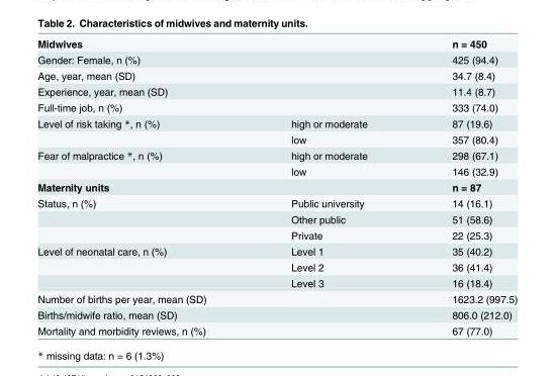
<table><tbody><tr><td>Midwives</td><td></td><td>n = 450</td></tr><tr><td>Gender: Female, n (%)</td><td></td><td>425 (94.4)</td></tr><tr><td>Age, year, mean (SD)</td><td></td><td>34.7 (8.4)</td></tr><tr><td>Experience, year, mean (SD)</td><td></td><td>11.4 (8.7)</td></tr><tr><td>Full-time job, n (%)</td><td></td><td>333 (74.0)</td></tr><tr><td rowspan="2">Level of risk taking *, n (%)</td><td>high or moderate</td><td>87 (19.6)</td></tr><tr><td>low</td><td>357 (80.4)</td></tr><tr><td rowspan="2">Fear of malpractice *, n (%)</td><td>high or moderate</td><td>298 (67.1)</td></tr><tr><td>low</td><td>146 (32.9)</td></tr><tr><td>Maternity units</td><td></td><td>n = 87</td></tr><tr><td rowspan="3">Status, n (%)</td><td>Public university</td><td>14 (16.1)</td></tr><tr><td>Other public</td><td>51 (58.6)</td></tr><tr><td>Private</td><td>22 (25.3)</td></tr><tr><td rowspan="3">Level of neonatal care, n (%)</td><td>Level 1</td><td>35 (40.2)</td></tr><tr><td>Level 2</td><td>36 (41.4)</td></tr><tr><td>Level 3</td><td>16 (18.4)</td></tr><tr><td>Number of births per year, mean (SD)</td><td></td><td>1623.2 (997.5)</td></tr><tr><td>Births/midwife ratio, mean (SD)</td><td></td><td>806.0 (212.0)</td></tr><tr><td>Mortality and morbidity reviews, n (%)</td><td></td><td>67 (77.0)</td></tr></tbody></table>